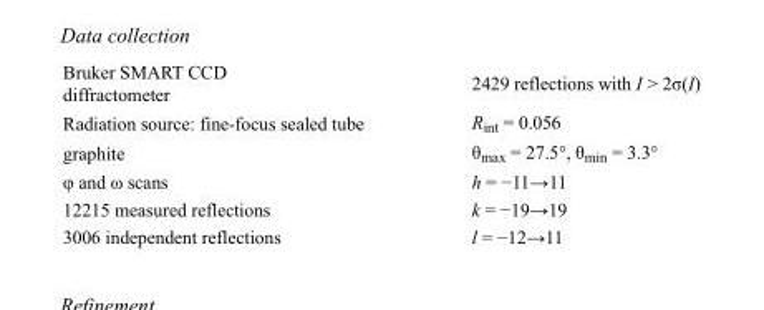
<table><tbody><tr><td>Bruker SMART CCD diffractometer</td><td>2429 reflections with I &gt; 2σ(I)</td></tr><tr><td>Radiation source: fine-focus sealed tube</td><td>R<sub>int</sub> = 0.056</td></tr><tr><td>graphite</td><td>θ<sub>max</sub> = 27.5°, θ<sub>min</sub> = 3.3°</td></tr><tr><td>φ and ω scans</td><td>h = −11→11</td></tr><tr><td>12215 measured reflections</td><td>k = −19→19</td></tr><tr><td>3006 independent reflections</td><td>l = −12→11</td></tr></tbody></table>